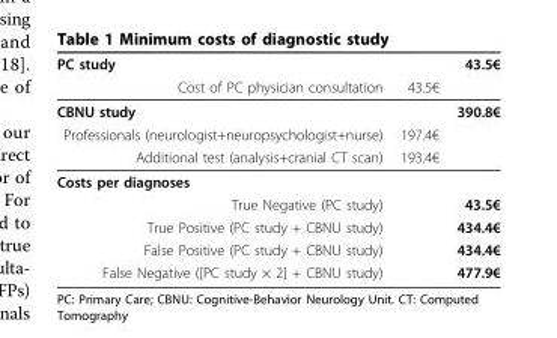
<table><thead><tr><td rowspan="2">PC study Cost of PC physician consultation</td><td rowspan="2">43.5€</td><td rowspan="2">43.5€</td></tr><tr></tr></thead><tbody><tr><td>CBNU study</td><td></td><td>390.8€</td></tr><tr><td>Professionals (neurologist+neuropsychologist+nurse)</td><td>197.4€</td><td></td></tr><tr><td>Additional test (analysis+cranial CT scan)</td><td>193.4€</td><td></td></tr><tr><td colspan="3">Costs per diagnoses</td></tr><tr><td>True Negative (PC study)</td><td></td><td>43.5€</td></tr><tr><td>True Positive (PC study + CBNU study)</td><td></td><td>434.4€</td></tr><tr><td>False Positive (PC study + CBNU study)</td><td></td><td>434.4€</td></tr><tr><td>False Negative ([PC study × 2] + CBNU study)</td><td></td><td>477.9€</td></tr></tbody></table>